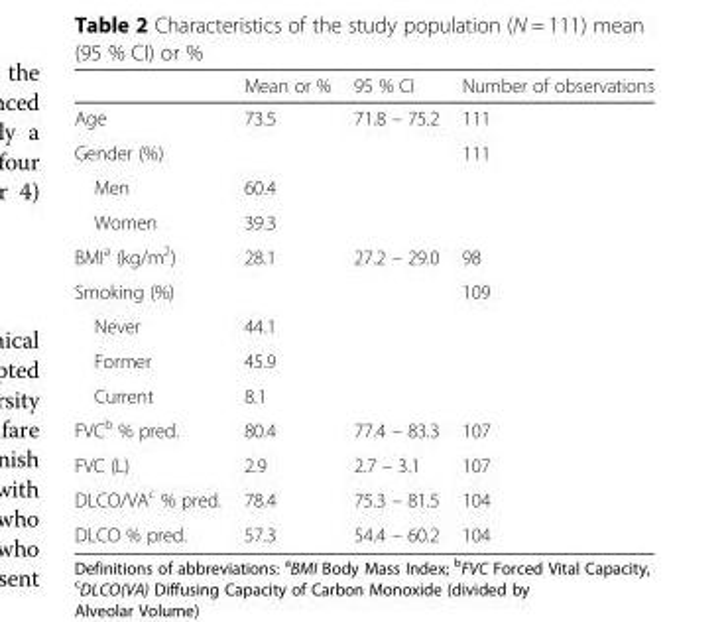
<table><thead><tr><td></td><td>Mean or %</td><td>95 % CI</td><td>Number of observations</td></tr></thead><tbody><tr><td>Age</td><td>73.5</td><td>71.8 – 75.2</td><td>111</td></tr><tr><td>Gender (%)</td><td></td><td></td><td>111</td></tr><tr><td>Men</td><td>60.4</td><td></td><td></td></tr><tr><td>Women</td><td>39.3</td><td></td><td></td></tr><tr><td>BMI<sup>a</sup> (kg/m<sup>2</sup>)</td><td>28.1</td><td>27.2 – 29.0</td><td>98</td></tr><tr><td>Smoking (%)</td><td></td><td></td><td>109</td></tr><tr><td>Never</td><td>44.1</td><td></td><td></td></tr><tr><td>Former</td><td>45.9</td><td></td><td></td></tr><tr><td>Current</td><td>8.1</td><td></td><td></td></tr><tr><td>FVC<sup>b</sup> % pred.</td><td>80.4</td><td>77.4 – 83.3</td><td>107</td></tr><tr><td>FVC (L)</td><td>2.9</td><td>2.7 – 3.1</td><td>107</td></tr><tr><td>DLCO/VA<sup>c</sup> % pred.</td><td>78.4</td><td>75.3 – 81.5</td><td>104</td></tr><tr><td>DLCO % pred.</td><td>57.3</td><td>54.4 – 60.2</td><td>104</td></tr></tbody></table>